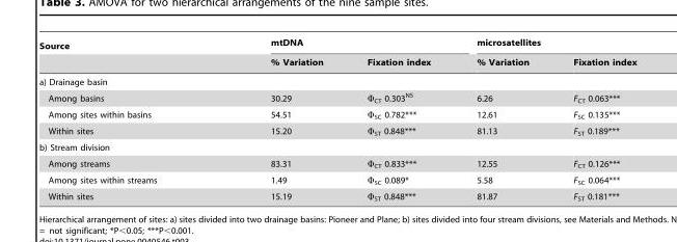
<table><thead><tr><td rowspan="2">Source</td><td colspan="2">mtDNA</td><td colspan="2">microsatellites</td></tr><tr><td>% Variation</td><td>Fixation index</td><td>% Variation</td><td>Fixation index</td></tr></thead><tbody><tr><td colspan="5">a) Drainage basin</td></tr><tr><td>Among basins</td><td>30.29</td><td>Φ<sub>CT</sub> 0.303<sup>NS</sup></td><td>6.26</td><td>F<sub>CT</sub> 0.063***</td></tr><tr><td>Among sites within basins</td><td>54.51</td><td>Φ<sub>SC</sub> 0.782***</td><td>12.61</td><td>F<sub>SC</sub> 0.135***</td></tr><tr><td>Within sites</td><td>15.20</td><td>Φ<sub>ST</sub> 0.848***</td><td>81.13</td><td>F<sub>ST</sub> 0.189***</td></tr><tr><td colspan="5">b) Stream division</td></tr><tr><td>Among streams</td><td>83.31</td><td>Φ<sub>CT</sub> 0.833***</td><td>12.55</td><td>F<sub>CT</sub> 0.126***</td></tr><tr><td>Among sites within streams</td><td>1.49</td><td>Φ<sub>SC</sub> 0.089*</td><td>5.58</td><td>F<sub>SC</sub> 0.064***</td></tr><tr><td>Within sites</td><td>15.19</td><td>Φ<sub>ST</sub> 0.848***</td><td>81.87</td><td>F<sub>ST</sub> 0.181***</td></tr></tbody></table>